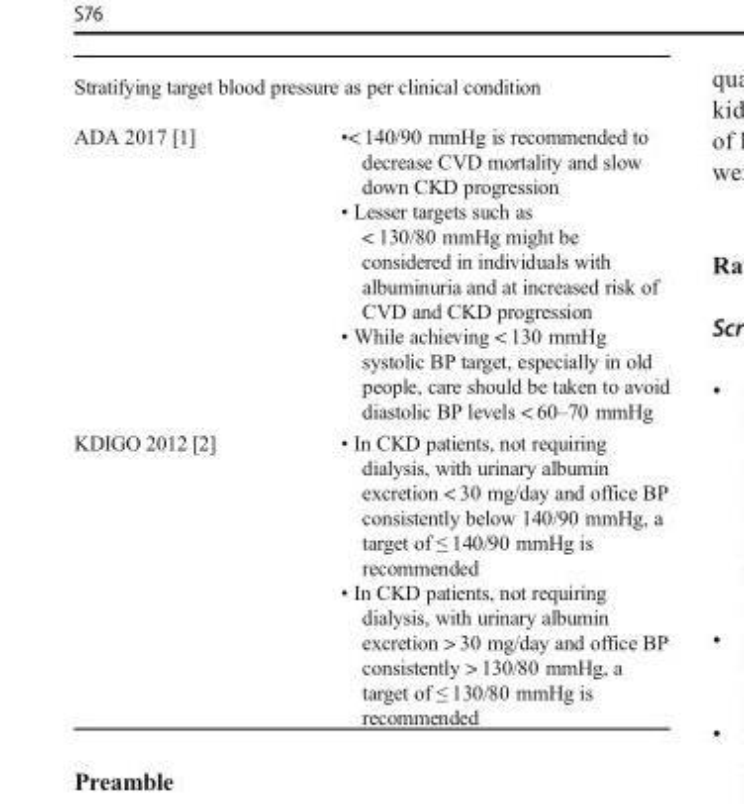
<table><thead><tr><td colspan="2">Stratifying target blood pressure as per clinical condition</td></tr><tr><td>ADA 2017 [1]</td><td>•&lt; 140/90 mmHg is recommended to decrease CVD mortality and slow down CKD progression • Lesser targets such as &lt; 130/80 mmHg might be considered in individuals with albuminuria and at increased risk of CVD and CKD progression • While achieving &lt; 130 mmHg systolic BP target, especially in old people, care should be taken to avoid diastolic BP levels &lt; 60–70 mmHg</td></tr></thead><tbody><tr><td>KDIGO 2012 [2]</td><td>• In CKD patients, not requiring dialysis, with urinary albumin excretion &lt; 30 mg/day and office BP consistently below 140/90 mmHg, a target of ≤ 140/90 mmHg is recommended • In CKD patients, not requiring dialysis, with urinary albumin excretion &gt; 30 mg/day and office BP consistently &gt; 130/80 mmHg, a target of ≤ 130/80 mmHg is recommended</td></tr></tbody></table>